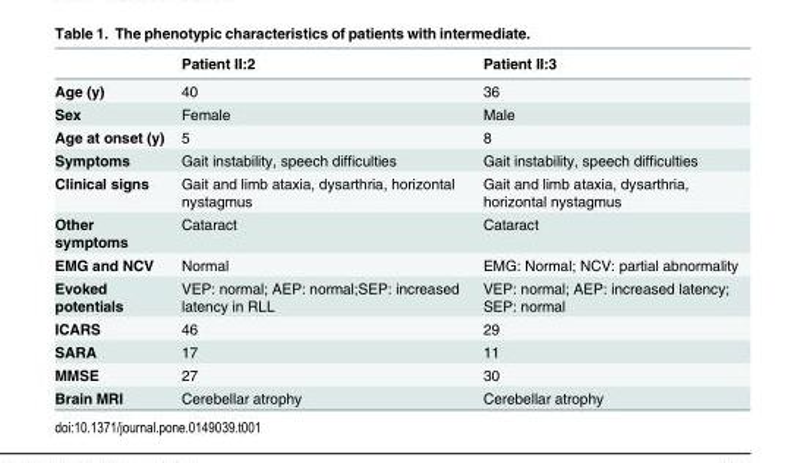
<table><thead><tr><td></td><td>Patient II:2</td><td>Patient II:3</td></tr></thead><tbody><tr><td>Age (y)</td><td>40</td><td>36</td></tr><tr><td>Sex</td><td>Female</td><td>Male</td></tr><tr><td>Age at onset (y)</td><td>5</td><td>8</td></tr><tr><td>Symptoms</td><td>Gait instability, speech difficulties</td><td>Gait instability, speech difficulties</td></tr><tr><td>Clinical signs</td><td>Gait and limb ataxia, dysarthria, horizontal nystagmus</td><td>Gait and limb ataxia, dysarthria, horizontal nystagmus</td></tr><tr><td>Other symptoms</td><td>Cataract</td><td>Cataract</td></tr><tr><td>EMG and NCV</td><td>Normal</td><td>EMG: Normal; NCV: partial abnormality</td></tr><tr><td>Evoked potentials</td><td>VEP: normal; AEP: normal;SEP: increased latency in RLL</td><td>VEP: normal; AEP: increased latency; SEP: normal</td></tr><tr><td>ICARS</td><td>46</td><td>29</td></tr><tr><td>SARA</td><td>17</td><td>11</td></tr><tr><td>MMSE</td><td>27</td><td>30</td></tr><tr><td>Brain MRI</td><td>Cerebellar atrophy</td><td>Cerebellar atrophy</td></tr></tbody></table>